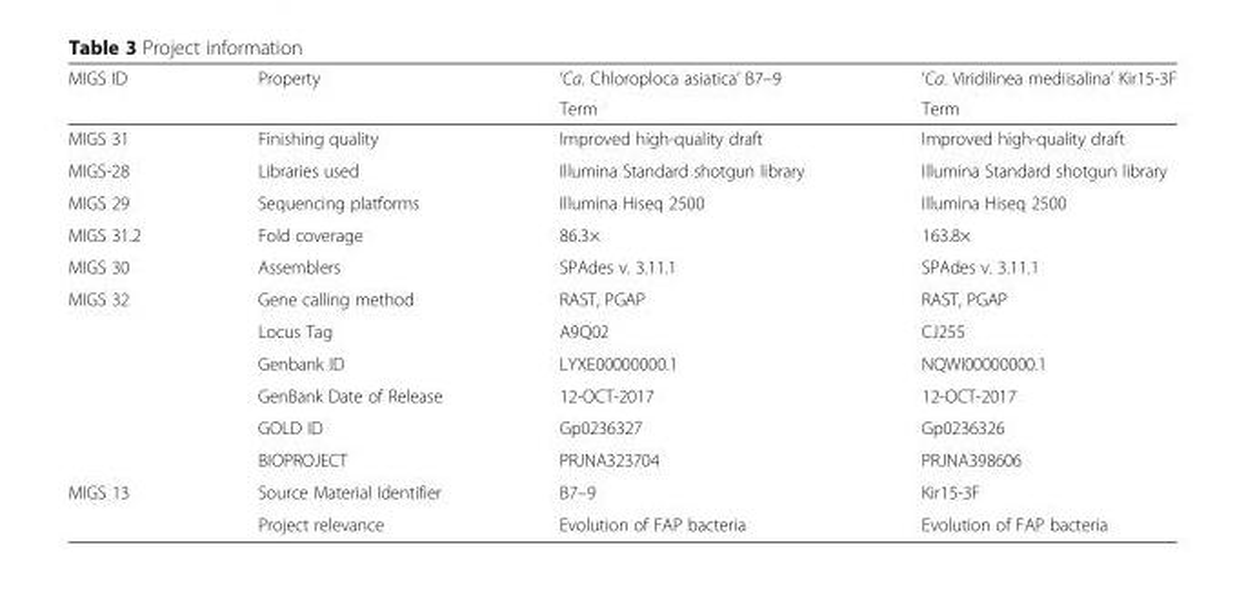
<table><thead><tr><td rowspan="2">MIGS ID</td><td rowspan="2">Property</td><td rowspan="2">‘Ca. Chloroploca asiatica’ B7–9 Term</td><td rowspan="2">‘Ca. Viridilinea mediisalina’ Kir15-3F Term</td></tr><tr></tr></thead><tbody><tr><td>MIGS 31</td><td>Finishing quality</td><td>Improved high-quality draft</td><td>Improved high-quality draft</td></tr><tr><td>MIGS-28</td><td>Libraries used</td><td>Illumina Standard shotgun library</td><td>Illumina Standard shotgun library</td></tr><tr><td>MIGS 29</td><td>Sequencing platforms</td><td>Illumina Hiseq 2500</td><td>Illumina Hiseq 2500</td></tr><tr><td>MIGS 31.2</td><td>Fold coverage</td><td>86.3×</td><td>163.8×</td></tr><tr><td>MIGS 30</td><td>Assemblers</td><td>SPAdes v. 3.11.1</td><td>SPAdes v. 3.11.1</td></tr><tr><td rowspan="6">MIGS 32</td><td>Gene calling method</td><td>RAST, PGAP</td><td>RAST, PGAP</td></tr><tr><td>Locus Tag</td><td>A9Q02</td><td>CJ255</td></tr><tr><td>Genbank ID</td><td>LYXE00000000.1</td><td>NQWI00000000.1</td></tr><tr><td>GenBank Date of Release</td><td>12-OCT-2017</td><td>12-OCT-2017</td></tr><tr><td>GOLD ID</td><td>Gp0236327</td><td>Gp0236326</td></tr><tr><td>BIOPROJECT</td><td>PRJNA323704</td><td>PRJNA398606</td></tr><tr><td rowspan="2">MIGS 13</td><td>Source Material Identifier</td><td>B7–9</td><td>Kir15-3F</td></tr><tr><td>Project relevance</td><td>Evolution of FAP bacteria</td><td>Evolution of FAP bacteria</td></tr></tbody></table>